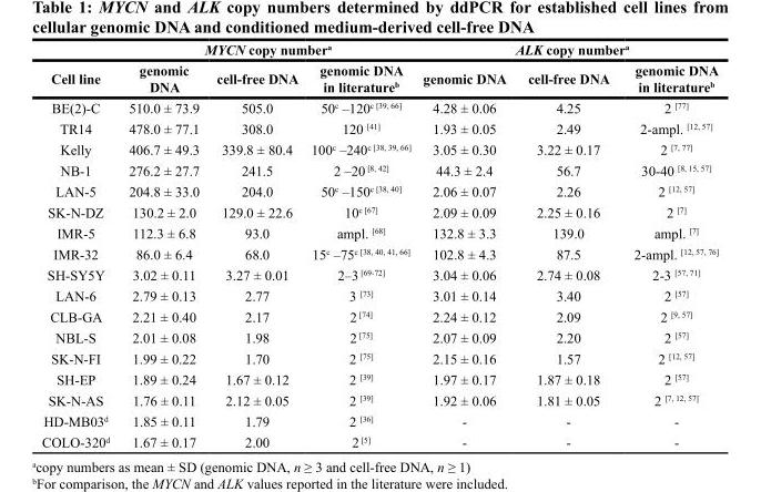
<table><thead><tr><td rowspan="2">Cell line</td><td colspan="3">MYCN copy number<sup>a</sup></td><td colspan="3">ALK copy number<sup>a</sup></td></tr><tr><td>genomic DNA</td><td>cell-free DNA</td><td>genomic DNA in literature<sup>b</sup></td><td>genomic DNA</td><td>cell-free DNA</td><td>genomic DNA in literature<sup>b</sup></td></tr></thead><tbody><tr><td>BE(2)-C</td><td>510.0 ± 73.9</td><td>505.0</td><td>50<sup>c</sup> –120<sup>c [39, 66]</sup></td><td>4.28 ± 0.06</td><td>4.25</td><td>2 <sup>[77]</sup></td></tr><tr><td>TR14</td><td>478.0 ± 77.1</td><td>308.0</td><td>120 <sup>[41]</sup></td><td>1.93 ± 0.05</td><td>2.49</td><td>2-ampl. <sup>[12, 57]</sup></td></tr><tr><td>Kelly</td><td>406.7 ± 49.3</td><td>339.8 ± 80.4</td><td>100<sup>c</sup> –240<sup>c [38, 39, 66]</sup></td><td>3.05 ± 0.30</td><td>3.22 ± 0.17</td><td>2 <sup>[7, 77]</sup></td></tr><tr><td>NB-1</td><td>276.2 ± 27.7</td><td>241.5</td><td>2 –20 <sup>[8, 42]</sup></td><td>44.3 ± 2.4</td><td>56.7</td><td>30-40 <sup>[8, 15, 57]</sup></td></tr><tr><td>LAN-5</td><td>204.8 ± 33.0</td><td>204.0</td><td>50<sup>c</sup> –150<sup>c [38, 40]</sup></td><td>2.06 ± 0.07</td><td>2.26</td><td>2 <sup>[12, 57]</sup></td></tr><tr><td>SK-N-DZ</td><td>130.2 ± 2.0</td><td>129.0 ± 22.6</td><td>10<sup>c [67]</sup></td><td>2.09 ± 0.09</td><td>2.25 ± 0.16</td><td>2 <sup>[7]</sup></td></tr><tr><td>IMR-5</td><td>112.3 ± 6.8</td><td>93.0</td><td>ampl. <sup>[68]</sup></td><td>132.8 ± 3.3</td><td>139.0</td><td>ampl. <sup>[7]</sup></td></tr><tr><td>IMR-32</td><td>86.0 ± 6.4</td><td>68.0</td><td>15<sup>c</sup> –75<sup>c [38, 40, 41, 66]</sup></td><td>102.8 ± 4.3</td><td>87.5</td><td>2-ampl. <sup>[12, 57, 76]</sup></td></tr><tr><td>SH-SY5Y</td><td>3.02 ± 0.11</td><td>3.27 ± 0.01</td><td>2–3 <sup>[69-72]</sup></td><td>3.04 ± 0.06</td><td>2.74 ± 0.08</td><td>2-3 <sup>[57, 71]</sup></td></tr><tr><td>LAN-6</td><td>2.79 ± 0.13</td><td>2.77</td><td>3 <sup>[73]</sup></td><td>3.01 ± 0.14</td><td>3.40</td><td>2 <sup>[57]</sup></td></tr><tr><td>CLB-GA</td><td>2.21 ± 0.40</td><td>2.17</td><td>2 <sup>[74]</sup></td><td>2.24 ± 0.12</td><td>2.09</td><td>2 <sup>[9, 57]</sup></td></tr><tr><td>NBL-S</td><td>2.01 ± 0.08</td><td>1.98</td><td>2 <sup>[75]</sup></td><td>2.07 ± 0.09</td><td>2.20</td><td>2 <sup>[57]</sup></td></tr><tr><td>SK-N-FI</td><td>1.99 ± 0.22</td><td>1.70</td><td>2 <sup>[75]</sup></td><td>2.15 ± 0.16</td><td>1.57</td><td>2 <sup>[12, 57]</sup></td></tr><tr><td>SH-EP</td><td>1.89 ± 0.24</td><td>1.67 ± 0.12</td><td>2 <sup>[39]</sup></td><td>1.97 ± 0.17</td><td>1.87 ± 0.18</td><td>2 <sup>[57]</sup></td></tr><tr><td>SK-N-AS</td><td>1.76 ± 0.11</td><td>2.12 ± 0.05</td><td>2 <sup>[39]</sup></td><td>1.92 ± 0.06</td><td>1.81 ± 0.05</td><td>2 <sup>[7, 12, 57]</sup></td></tr><tr><td>HD-MB03<sup>d</sup></td><td>1.85 ± 0.11</td><td>1.79</td><td>2 <sup>[36]</sup></td><td>-</td><td>-</td><td>-</td></tr><tr><td>COLO-320<sup>d</sup></td><td>1.67 ± 0.17</td><td>2.00</td><td>2 <sup>[5]</sup></td><td>-</td><td>-</td><td>-</td></tr></tbody></table>